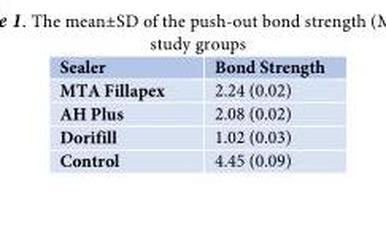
<table><thead><tr><td>Sealer</td><td>Bond Strength</td></tr></thead><tbody><tr><td>MTA Fillapex</td><td>2.24 (0.02)</td></tr><tr><td>AH Plus</td><td>2.08 (0.02)</td></tr><tr><td>Dorifill</td><td>1.02 (0.03)</td></tr><tr><td>Control</td><td>4.45 (0.09)</td></tr></tbody></table>